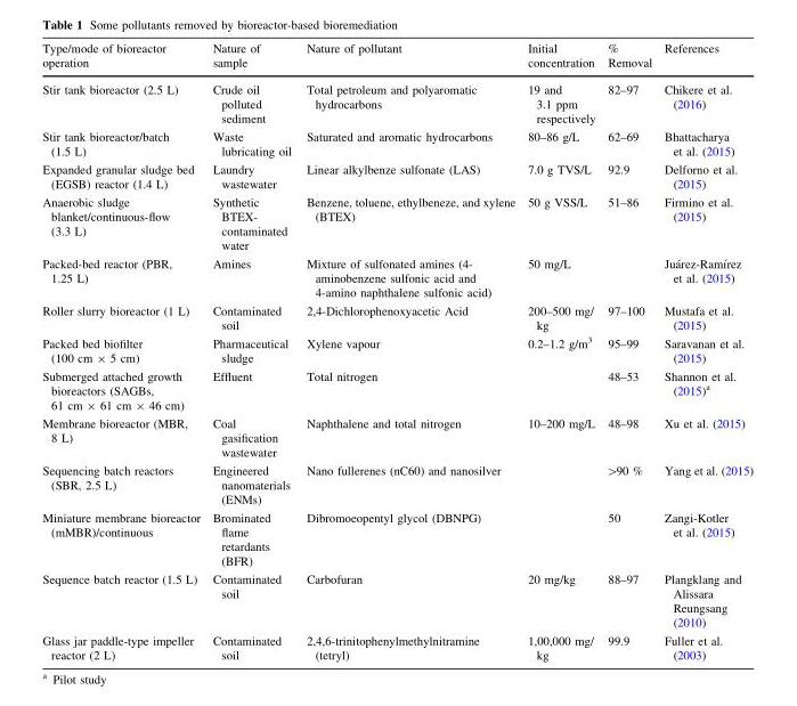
<table><thead><tr><td>Type/mode of bioreactor operation</td><td>Nature of sample</td><td>Nature of pollutant</td><td>Initial concentration</td><td>% Removal</td><td>References</td></tr></thead><tbody><tr><td>Stir tank bioreactor (2.5 L)</td><td>Crude oil polluted sediment</td><td>Total petroleum and polyaromatic hydrocarbons</td><td>19 and 3.1 ppm respectively</td><td>82–97</td><td>Chikere et al. (2016)</td></tr><tr><td>Stir tank bioreactor/batch (1.5 L)</td><td>Waste lubricating oil</td><td>Saturated and aromatic hydrocarbons</td><td>80–86 g/L</td><td>62–69</td><td>Bhattacharya et al. (2015)</td></tr><tr><td>Expanded granular sludge bed (EGSB) reactor (1.4 L)</td><td>Laundry wastewater</td><td>Linear alkylbenze sulfonate (LAS)</td><td>7.0 g TVS/L</td><td>92.9</td><td>Delforno et al. (2015)</td></tr><tr><td>Anaerobic sludge blanket/continuous-flow (3.3 L)</td><td>Synthetic BTEX- contaminated water</td><td>Benzene, toluene, ethylbeneze, and xylene (BTEX)</td><td>50 g VSS/L</td><td>51–86</td><td>Firmino et al. (2015)</td></tr><tr><td>Packed-bed reactor (PBR, 1.25 L)</td><td>Amines</td><td>Mixture of sulfonated amines (4- aminobenzene sulfonic acid and 4-amino naphthalene sulfonic acid)</td><td>50 mg/L</td><td></td><td>Jua´rez-Ramı´rez et al. (2015)</td></tr><tr><td>Roller slurry bioreactor (1 L)</td><td>Contaminated soil</td><td>2,4-Dichlorophenoxyacetic Acid</td><td>200–500 mg/ kg</td><td>97–100</td><td>Mustafa et al. (2015)</td></tr><tr><td>Packed bed biofilter (100 cm × 5 cm)</td><td>Pharmaceutical sludge</td><td>Xylene vapour</td><td>0.2–1.2 g/m<sup>3</sup></td><td>95–99</td><td>Saravanan et al. (2015)</td></tr><tr><td>Submerged attached growth bioreactors (SAGBs, 61 cm × 61 cm × 46 cm)</td><td>Effluent</td><td>Total nitrogen</td><td></td><td>48–53</td><td>Shannon et al. (2015)<sup>a</sup></td></tr><tr><td>Membrane bioreactor (MBR, 8 L)</td><td>Coal gasification wastewater</td><td>Naphthalene and total nitrogen</td><td>10–200 mg/L</td><td>48–98</td><td>Xu et al. (2015)</td></tr><tr><td>Sequencing batch reactors (SBR, 2.5 L)</td><td>Engineered nanomaterials (ENMs)</td><td>Nano fullerenes (nC60) and nanosilver</td><td></td><td>&gt;90 %</td><td>Yang et al. (2015)</td></tr><tr><td>Miniature membrane bioreactor (mMBR)/continuous</td><td>Brominated flame retardants (BFR)</td><td>Dibromoeopentyl glycol (DBNPG)</td><td></td><td>50</td><td>Zangi-Kotler et al. (2015)</td></tr><tr><td>Sequence batch reactor (1.5 L)</td><td>Contaminated soil</td><td>Carbofuran</td><td>20 mg/kg</td><td>88–97</td><td>Plangklang and Alissara Reungsang (2010)</td></tr><tr><td>Glass jar paddle-type impeller reactor (2 L)</td><td>Contaminated soil</td><td>2,4,6-trinitophenylmethylnitramine (tetryl)</td><td>1,00,000 mg/ kg</td><td>99.9</td><td>Fuller et al. (2003)</td></tr></tbody></table>